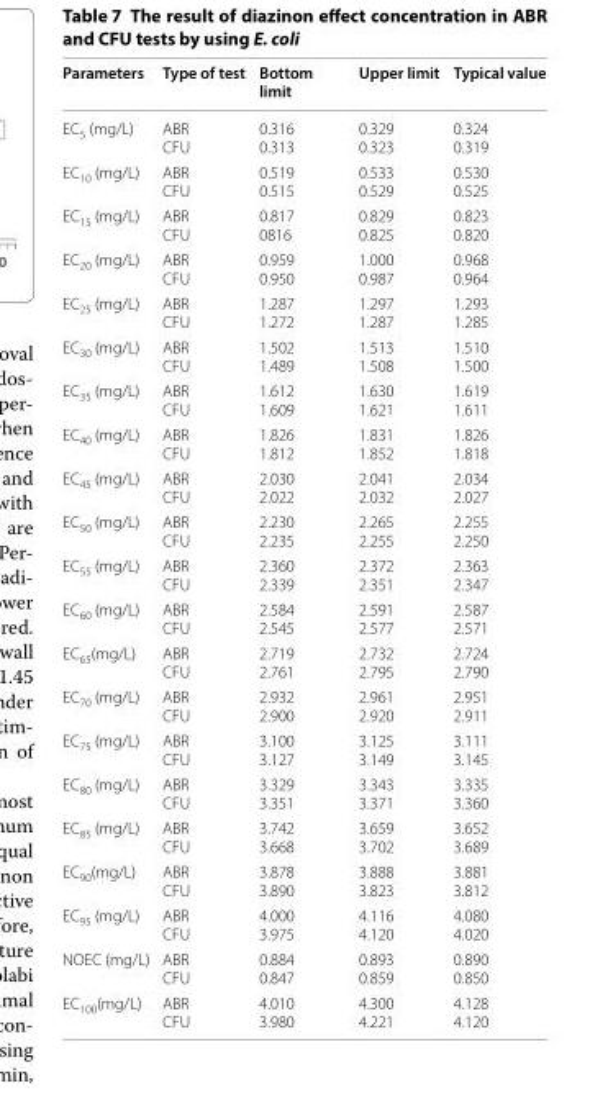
<table><thead><tr><td>Parameters</td><td>Type of test</td><td>Bottom limit</td><td>Upper limit</td><td>Typical value</td></tr></thead><tbody><tr><td>EC<sub>5</sub> (mg/L)</td><td>ABR CFU</td><td>0.316 0.313</td><td>0.329 0.323</td><td>0.324 0.319</td></tr><tr><td>EC<sub>10</sub> (mg/L)</td><td>ABR CFU</td><td>0.519 0.515</td><td>0.533 0.529</td><td>0.530 0.525</td></tr><tr><td>EC<sub>15</sub> (mg/L)</td><td>ABR CFU</td><td>0.817 0816</td><td>0.829 0.825</td><td>0.823 0.820</td></tr><tr><td>EC<sub>20</sub> (mg/L)</td><td>ABR CFU</td><td>0.959 0.950</td><td>1.000 0.987</td><td>0.968 0.964</td></tr><tr><td>EC<sub>25</sub> (mg/L)</td><td>ABR CFU</td><td>1.287 1.272</td><td>1.297 1.287</td><td>1.293 1.285</td></tr><tr><td>EC<sub>30</sub> (mg/L)</td><td>ABR CFU</td><td>1.502 1.489</td><td>1.513 1.508</td><td>1.510 1.500</td></tr><tr><td>EC<sub>35</sub> (mg/L)</td><td>ABR CFU</td><td>1.612 1.609</td><td>1.630 1.621</td><td>1.619 1.611</td></tr><tr><td>EC<sub>40</sub> (mg/L)</td><td>ABR CFU</td><td>1.826 1.812</td><td>1.831 1.852</td><td>1.826 1.818</td></tr><tr><td>EC<sub>45</sub> (mg/L)</td><td>ABR CFU</td><td>2.030 2.022</td><td>2.041 2.032</td><td>2.034 2.027</td></tr><tr><td>EC<sub>50</sub> (mg/L)</td><td>ABR CFU</td><td>2.230 2.235</td><td>2.265 2.255</td><td>2.255 2.250</td></tr><tr><td>EC<sub>55</sub> (mg/L)</td><td>ABR CFU</td><td>2.360 2.339</td><td>2.372 2.351</td><td>2.363 2.347</td></tr><tr><td>EC<sub>60</sub> (mg/L)</td><td>ABR CFU</td><td>2.584 2.545</td><td>2.591 2.577</td><td>2.587 2.571</td></tr><tr><td>EC<sub>65</sub>(mg/L)</td><td>ABR CFU</td><td>2.719 2.761</td><td>2.732 2.795</td><td>2.724 2.790</td></tr><tr><td>EC<sub>70</sub> (mg/L)</td><td>ABR CFU</td><td>2.932 2.900</td><td>2.961 2.920</td><td>2.951 2.911</td></tr><tr><td>EC<sub>75</sub> (mg/L)</td><td>ABR CFU</td><td>3.100 3.127</td><td>3.125 3.149</td><td>3.111 3.145</td></tr><tr><td>EC<sub>80</sub> (mg/L)</td><td>ABR CFU</td><td>3.329 3.351</td><td>3.343 3.371</td><td>3.335 3.360</td></tr><tr><td>EC<sub>85</sub> (mg/L)</td><td>ABR CFU</td><td>3.742 3.668</td><td>3.659 3.702</td><td>3.652 3.689</td></tr><tr><td>EC<sub>90</sub>(mg/L)</td><td>ABR CFU</td><td>3.878 3.890</td><td>3.888 3.823</td><td>3.881 3.812</td></tr><tr><td>EC<sub>95</sub> (mg/L)</td><td>ABR CFU</td><td>4.000 3.975</td><td>4.116 4.120</td><td>4.080 4.020</td></tr><tr><td>NOEC (mg/L)</td><td>ABR CFU</td><td>0.884 0.847</td><td>0.893 0.859</td><td>0.890 0.850</td></tr><tr><td>EC<sub>100</sub>(mg/L)</td><td>ABR CFU</td><td>4.010 3.980</td><td>4.300 4.221</td><td>4.128 4.120</td></tr></tbody></table>